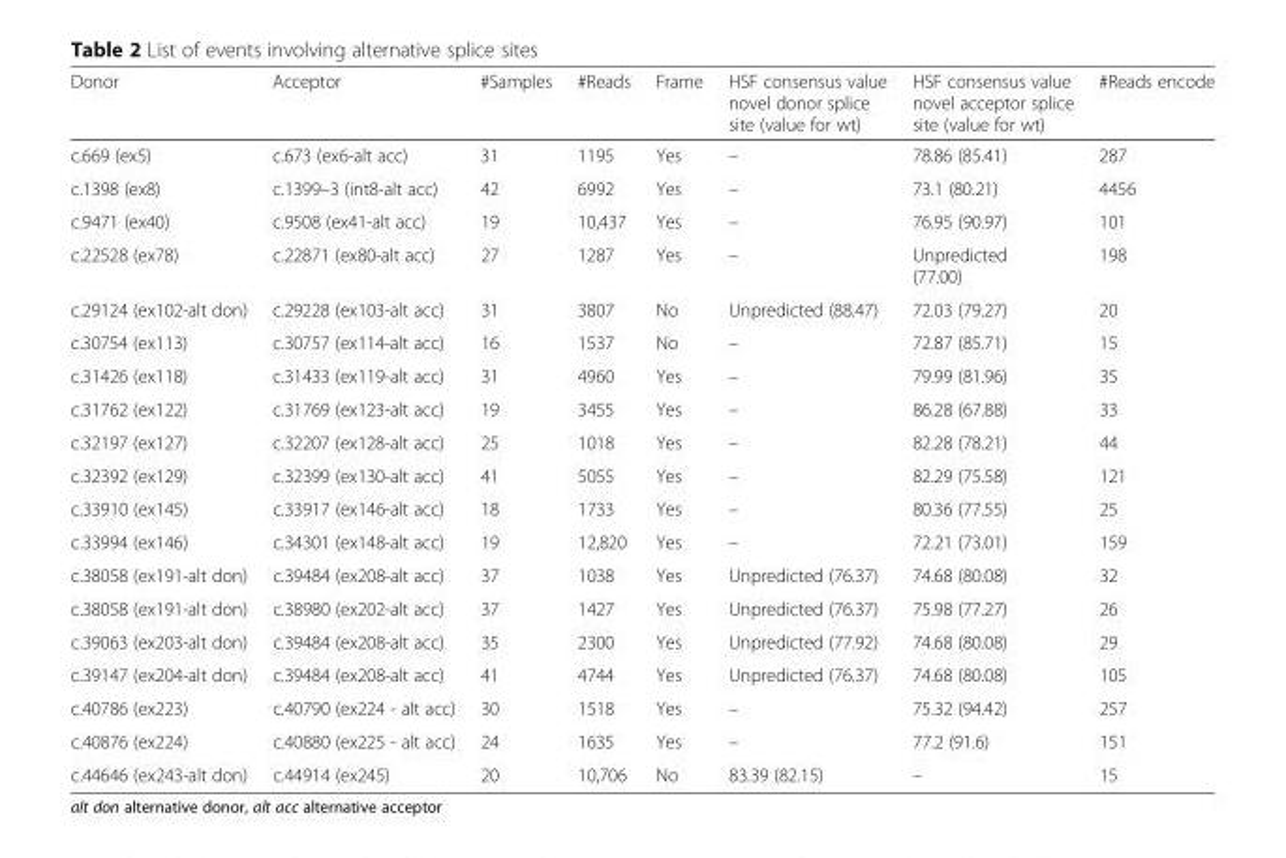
<table><thead><tr><td>Donor</td><td>Acceptor</td><td>#Samples</td><td>#Reads</td><td>Frame</td><td>HSF consensus value novel donor splice site (value for wt)</td><td>HSF consensus value novel acceptor splice site (value for wt)</td><td>#Reads encode</td></tr></thead><tbody><tr><td>c.669 (ex5)</td><td>c.673 (ex6-alt acc)</td><td>31</td><td>1195</td><td>Yes</td><td>–</td><td>78.86 (85.41)</td><td>287</td></tr><tr><td>c.1398 (ex8)</td><td>c.1399–3 (int8-alt acc)</td><td>42</td><td>6992</td><td>Yes</td><td>–</td><td>73.1 (80.21)</td><td>4456</td></tr><tr><td>c.9471 (ex40)</td><td>c.9508 (ex41-alt acc)</td><td>19</td><td>10,437</td><td>Yes</td><td>–</td><td>76.95 (90.97)</td><td>101</td></tr><tr><td>c.22528 (ex78)</td><td>c.22871 (ex80-alt acc)</td><td>27</td><td>1287</td><td>Yes</td><td>–</td><td>Unpredicted (77.00)</td><td>198</td></tr><tr><td>c.29124 (ex102-alt don)</td><td>c.29228 (ex103-alt acc)</td><td>31</td><td>3807</td><td>No</td><td>Unpredicted (88.47)</td><td>72.03 (79.27)</td><td>20</td></tr><tr><td>c.30754 (ex113)</td><td>c.30757 (ex114-alt acc)</td><td>16</td><td>1537</td><td>No</td><td>–</td><td>72.87 (85.71)</td><td>15</td></tr><tr><td>c.31426 (ex118)</td><td>c.31433 (ex119-alt acc)</td><td>31</td><td>4960</td><td>Yes</td><td>–</td><td>79.99 (81.96)</td><td>35</td></tr><tr><td>c.31762 (ex122)</td><td>c.31769 (ex123-alt acc)</td><td>19</td><td>3455</td><td>Yes</td><td>–</td><td>86.28 (67.88)</td><td>33</td></tr><tr><td>c.32197 (ex127)</td><td>c.32207 (ex128-alt acc)</td><td>25</td><td>1018</td><td>Yes</td><td>–</td><td>82.28 (78.21)</td><td>44</td></tr><tr><td>c.32392 (ex129)</td><td>c.32399 (ex130-alt acc)</td><td>41</td><td>5055</td><td>Yes</td><td>–</td><td>82.29 (75.58)</td><td>121</td></tr><tr><td>c.33910 (ex145)</td><td>c.33917 (ex146-alt acc)</td><td>18</td><td>1733</td><td>Yes</td><td>–</td><td>80.36 (77.55)</td><td>25</td></tr><tr><td>c.33994 (ex146)</td><td>c.34301 (ex148-alt acc)</td><td>19</td><td>12,820</td><td>Yes</td><td>–</td><td>72.21 (73.01)</td><td>159</td></tr><tr><td>c.38058 (ex191-alt don)</td><td>c.39484 (ex208-alt acc)</td><td>37</td><td>1038</td><td>Yes</td><td>Unpredicted (76.37)</td><td>74.68 (80.08)</td><td>32</td></tr><tr><td>c.38058 (ex191-alt don)</td><td>c.38980 (ex202-alt acc)</td><td>37</td><td>1427</td><td>Yes</td><td>Unpredicted (76.37)</td><td>75.98 (77.27)</td><td>26</td></tr><tr><td>c.39063 (ex203-alt don)</td><td>c.39484 (ex208-alt acc)</td><td>35</td><td>2300</td><td>Yes</td><td>Unpredicted (77.92)</td><td>74.68 (80.08)</td><td>29</td></tr><tr><td>c.39147 (ex204-alt don)</td><td>c.39484 (ex208-alt acc)</td><td>41</td><td>4744</td><td>Yes</td><td>Unpredicted (76.37)</td><td>74.68 (80.08)</td><td>105</td></tr><tr><td>c.40786 (ex223)</td><td>c.40790 (ex224 - alt acc)</td><td>30</td><td>1518</td><td>Yes</td><td>–</td><td>75.32 (94.42)</td><td>257</td></tr><tr><td>c.40876 (ex224)</td><td>c.40880 (ex225 - alt acc)</td><td>24</td><td>1635</td><td>Yes</td><td>–</td><td>77.2 (91.6)</td><td>151</td></tr><tr><td>c.44646 (ex243-alt don)</td><td>c.44914 (ex245)</td><td>20</td><td>10,706</td><td>No</td><td>83.39 (82.15)</td><td>–</td><td>15</td></tr></tbody></table>